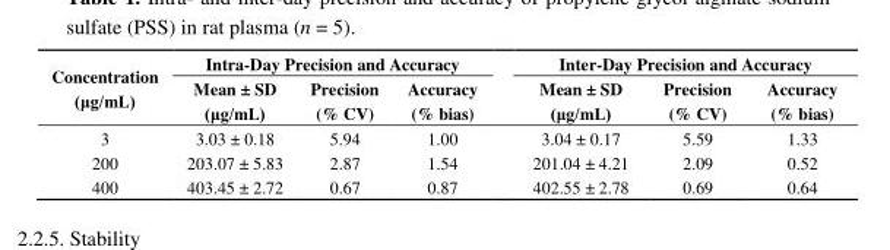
<table><thead><tr><td rowspan="2">Concentration (μg/mL)</td><td colspan="3">Intra-Day Precision and Accuracy</td><td colspan="3">Inter-Day Precision and Accuracy</td></tr><tr><td>Mean ± SD (μg/mL)</td><td>Precision (% CV)</td><td>Accuracy (% bias)</td><td>Mean ± SD (μg/mL)</td><td>Precision (% CV)</td><td>Accuracy (% bias)</td></tr></thead><tbody><tr><td>3</td><td>3.03 ± 0.18</td><td>5.94</td><td>1.00</td><td>3.04 ± 0.17</td><td>5.59</td><td>1.33</td></tr><tr><td>200</td><td>203.07 ± 5.83</td><td>2.87</td><td>1.54</td><td>201.04 ± 4.21</td><td>2.09</td><td>0.52</td></tr><tr><td>400</td><td>403.45 ± 2.72</td><td>0.67</td><td>0.87</td><td>402.55 ± 2.78</td><td>0.69</td><td>0.64</td></tr></tbody></table>